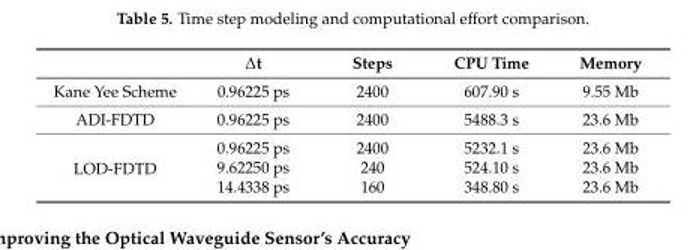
<table><thead><tr><td></td><td>∆t</td><td>Steps</td><td>CPU Time</td><td>Memory</td></tr></thead><tbody><tr><td>Kane Yee Scheme</td><td>0.96225 ps</td><td>2400</td><td>607.90 s</td><td>9.55 Mb</td></tr><tr><td>ADI-FDTD</td><td>0.96225 ps</td><td>2400</td><td>5488.3 s</td><td>23.6 Mb</td></tr><tr><td rowspan="3">LOD-FDTD</td><td>0.96225 ps</td><td>2400</td><td>5232.1 s</td><td>23.6 Mb</td></tr><tr><td>9.62250 ps</td><td>240</td><td>524.10 s</td><td>23.6 Mb</td></tr><tr><td>14.4338 ps</td><td>160</td><td>348.80 s</td><td>23.6 Mb</td></tr></tbody></table>